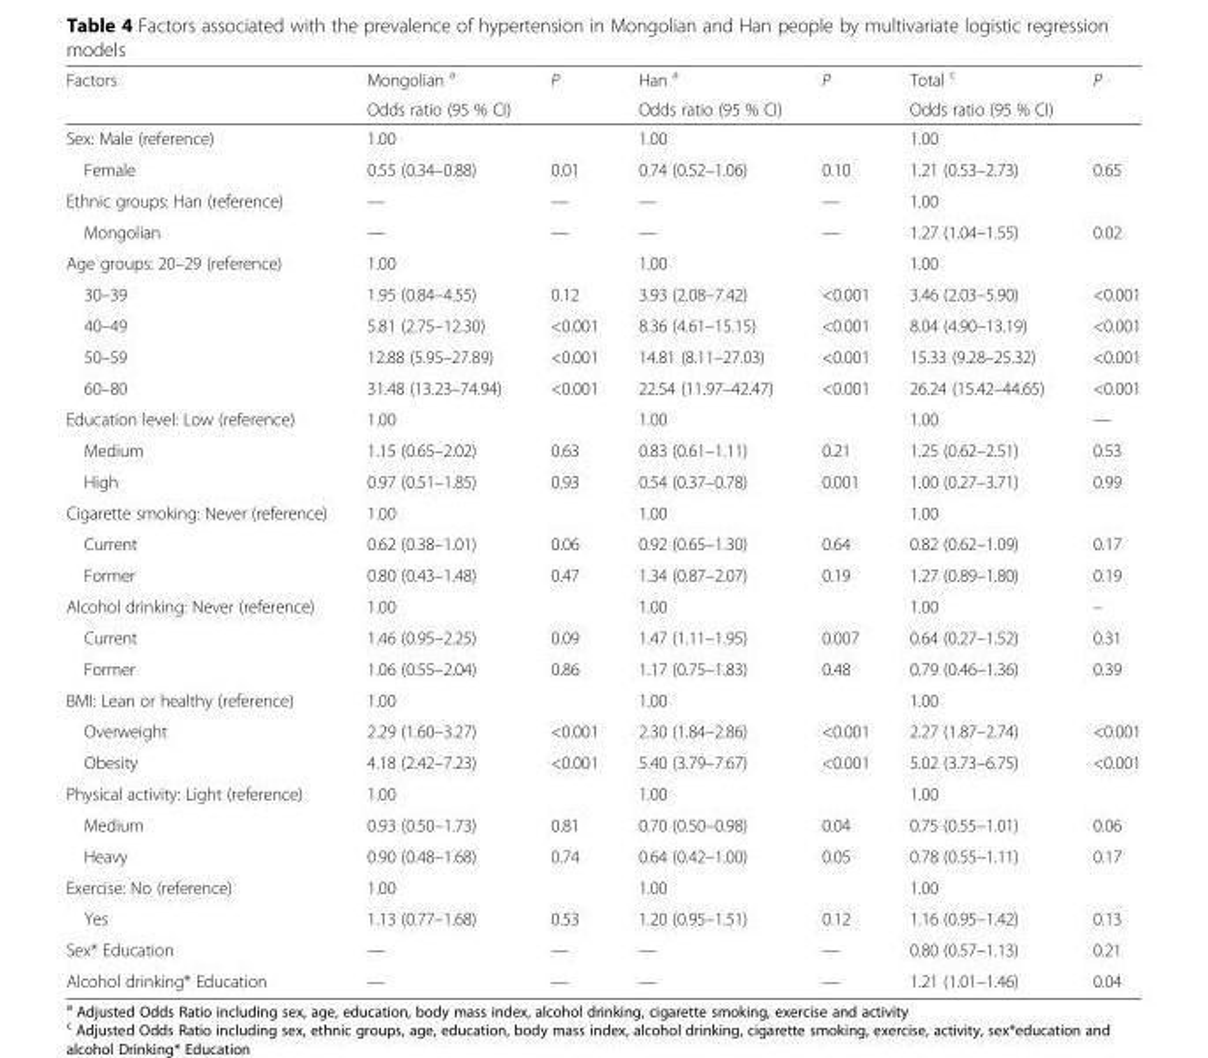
<table><thead><tr><td rowspan="2">Factors</td><td rowspan="2">Mongolian <sup>a</sup> Odds ratio (95 % CI)</td><td rowspan="2">P</td><td rowspan="2">Han <sup>a</sup> Odds ratio (95 % CI)</td><td rowspan="2">P</td><td rowspan="2">Total <sup>c</sup> Odds ratio (95 % CI)</td><td rowspan="2">P</td></tr><tr></tr></thead><tbody><tr><td>Sex: Male (reference)</td><td>1.00</td><td></td><td>1.00</td><td></td><td>1.00</td><td></td></tr><tr><td>Female</td><td>0.55 (0.34–0.88)</td><td>0.01</td><td>0.74 (0.52–1.06)</td><td>0.10</td><td>1.21 (0.53–2.73)</td><td>0.65</td></tr><tr><td>Ethnic groups: Han (reference)</td><td>—</td><td>—</td><td>—</td><td>—</td><td>1.00</td><td></td></tr><tr><td>Mongolian</td><td>—</td><td>—</td><td>—</td><td>—</td><td>1.27 (1.04–1.55)</td><td>0.02</td></tr><tr><td>Age groups: 20–29 (reference)</td><td>1.00</td><td></td><td>1.00</td><td></td><td>1.00</td><td></td></tr><tr><td>30–39</td><td>1.95 (0.84–4.55)</td><td>0.12</td><td>3.93 (2.08–7.42)</td><td>&lt;0.001</td><td>3.46 (2.03–5.90)</td><td>&lt;0.001</td></tr><tr><td>40–49</td><td>5.81 (2.75–12.30)</td><td>&lt;0.001</td><td>8.36 (4.61–15.15)</td><td>&lt;0.001</td><td>8.04 (4.90–13.19)</td><td>&lt;0.001</td></tr><tr><td>50–59</td><td>12.88 (5.95–27.89)</td><td>&lt;0.001</td><td>14.81 (8.11–27.03)</td><td>&lt;0.001</td><td>15.33 (9.28–25.32)</td><td>&lt;0.001</td></tr><tr><td>60–80</td><td>31.48 (13.23–74.94)</td><td>&lt;0.001</td><td>22.54 (11.97–42.47)</td><td>&lt;0.001</td><td>26.24 (15.42–44.65)</td><td>&lt;0.001</td></tr><tr><td>Education level: Low (reference)</td><td>1.00</td><td></td><td>1.00</td><td></td><td>1.00</td><td>—</td></tr><tr><td>Medium</td><td>1.15 (0.65–2.02)</td><td>0.63</td><td>0.83 (0.61–1.11)</td><td>0.21</td><td>1.25 (0.62–2.51)</td><td>0.53</td></tr><tr><td>High</td><td>0.97 (0.51–1.85)</td><td>0.93</td><td>0.54 (0.37–0.78)</td><td>0.001</td><td>1.00 (0.27–3.71)</td><td>0.99</td></tr><tr><td>Cigarette smoking: Never (reference)</td><td>1.00</td><td></td><td>1.00</td><td></td><td>1.00</td><td></td></tr><tr><td>Current</td><td>0.62 (0.38–1.01)</td><td>0.06</td><td>0.92 (0.65–1.30)</td><td>0.64</td><td>0.82 (0.62–1.09)</td><td>0.17</td></tr><tr><td>Former</td><td>0.80 (0.43–1.48)</td><td>0.47</td><td>1.34 (0.87–2.07)</td><td>0.19</td><td>1.27 (0.89–1.80)</td><td>0.19</td></tr><tr><td>Alcohol drinking: Never (reference)</td><td>1.00</td><td></td><td>1.00</td><td></td><td>1.00</td><td>–</td></tr><tr><td>Current</td><td>1.46 (0.95–2.25)</td><td>0.09</td><td>1.47 (1.11–1.95)</td><td>0.007</td><td>0.64 (0.27–1.52)</td><td>0.31</td></tr><tr><td>Former</td><td>1.06 (0.55–2.04)</td><td>0.86</td><td>1.17 (0.75–1.83)</td><td>0.48</td><td>0.79 (0.46–1.36)</td><td>0.39</td></tr><tr><td>BMI: Lean or healthy (reference)</td><td>1.00</td><td></td><td>1.00</td><td></td><td>1.00</td><td></td></tr><tr><td>Overweight</td><td>2.29 (1.60–3.27)</td><td>&lt;0.001</td><td>2.30 (1.84–2.86)</td><td>&lt;0.001</td><td>2.27 (1.87–2.74)</td><td>&lt;0.001</td></tr><tr><td>Obesity</td><td>4.18 (2.42–7.23)</td><td>&lt;0.001</td><td>5.40 (3.79–7.67)</td><td>&lt;0.001</td><td>5.02 (3.73–6.75)</td><td>&lt;0.001</td></tr><tr><td>Physical activity: Light (reference)</td><td>1.00</td><td></td><td>1.00</td><td></td><td>1.00</td><td></td></tr><tr><td>Medium</td><td>0.93 (0.50–1.73)</td><td>0.81</td><td>0.70 (0.50–0.98)</td><td>0.04</td><td>0.75 (0.55–1.01)</td><td>0.06</td></tr><tr><td>Heavy</td><td>0.90 (0.48–1.68)</td><td>0.74</td><td>0.64 (0.42–1.00)</td><td>0.05</td><td>0.78 (0.55–1.11)</td><td>0.17</td></tr><tr><td>Exercise: No (reference)</td><td>1.00</td><td></td><td>1.00</td><td></td><td>1.00</td><td></td></tr><tr><td>Yes</td><td>1.13 (0.77–1.68)</td><td>0.53</td><td>1.20 (0.95–1.51)</td><td>0.12</td><td>1.16 (0.95–1.42)</td><td>0.13</td></tr><tr><td>Sex* Education</td><td>—</td><td>—</td><td>—</td><td>—</td><td>0.80 (0.57–1.13)</td><td>0.21</td></tr><tr><td>Alcohol drinking* Education</td><td>—</td><td>—</td><td>—</td><td>—</td><td>1.21 (1.01–1.46)</td><td>0.04</td></tr></tbody></table>